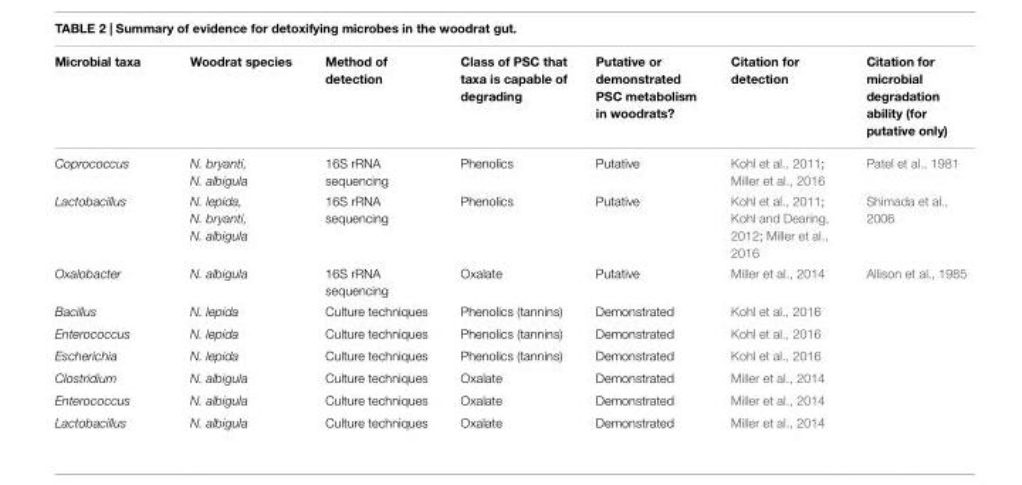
<table><thead><tr><td>Microbial taxa</td><td>Woodrat species</td><td>Method of detection</td><td>Class of PSC that taxa is capable of degrading</td><td>Putative or demonstrated PSC metabolism in woodrats?</td><td>Citation for detection</td><td>Citation for microbial degradation ability (for putative only)</td></tr></thead><tbody><tr><td>Coprococcus</td><td>N. bryanti, N. albigula</td><td>16S rRNA sequencing</td><td>Phenolics</td><td>Putative</td><td>Kohl et al., 2011; Miller et al., 2016</td><td>Patel et al., 1981</td></tr><tr><td>Lactobacillus</td><td>N. lepida, N. bryanti, N. albigula</td><td>16S rRNA sequencing</td><td>Phenolics</td><td>Putative</td><td>Kohl et al., 2011; Kohl and Dearing, 2012; Miller et al., 2016</td><td>Shimada et al., 2006</td></tr><tr><td>Oxalobacter</td><td>N. albigula</td><td>16S rRNA sequencing</td><td>Oxalate</td><td>Putative</td><td>Miller et al., 2014</td><td>Allison et al., 1985</td></tr><tr><td>Bacillus</td><td>N. lepida</td><td>Culture techniques</td><td>Phenolics (tannins)</td><td>Demonstrated</td><td>Kohl et al., 2016</td><td></td></tr><tr><td>Enterococcus</td><td>N. lepida</td><td>Culture techniques</td><td>Phenolics (tannins)</td><td>Demonstrated</td><td>Kohl et al., 2016</td><td></td></tr><tr><td>Escherichia</td><td>N. lepida</td><td>Culture techniques</td><td>Phenolics (tannins)</td><td>Demonstrated</td><td>Kohl et al., 2016</td><td></td></tr><tr><td>Clostridium</td><td>N. albigula</td><td>Culture techniques</td><td>Oxalate</td><td>Demonstrated</td><td>Miller et al., 2014</td><td></td></tr><tr><td>Enterococcus</td><td>N. albigula</td><td>Culture techniques</td><td>Oxalate</td><td>Demonstrated</td><td>Miller et al., 2014</td><td></td></tr><tr><td>Lactobacillus</td><td>N. albigula</td><td>Culture techniques</td><td>Oxalate</td><td>Demonstrated</td><td>Miller et al., 2014</td><td></td></tr></tbody></table>